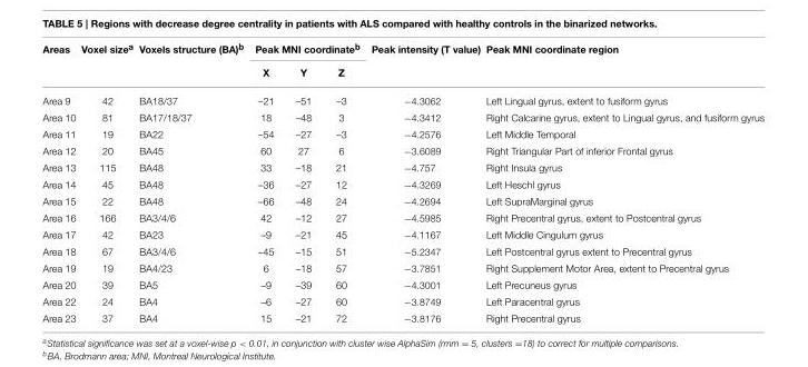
<table><thead><tr><td rowspan="2">Areas</td><td rowspan="2">Voxel size<sup>a</sup></td><td rowspan="2">Voxels structure (BA)<sup>b</sup></td><td colspan="3">Peak MNI coordinate<sup>b</sup></td><td rowspan="2">Peak intensity (T value)</td><td rowspan="2">Peak MNI coordinate region</td></tr><tr><td>X</td><td>Y</td><td>Z</td></tr></thead><tbody><tr><td>Area 9</td><td>42</td><td>BA18/37</td><td>–21</td><td>–51</td><td>–3</td><td>−4.3062</td><td>Left Lingual gyrus, extent to fusiform gyrus</td></tr><tr><td>Area 10</td><td>81</td><td>BA17/18/37</td><td>18</td><td>–48</td><td>3</td><td>−4.3412</td><td>Right Calcarine gyrus, extent to Lingual gyrus, and fusiform gyrus</td></tr><tr><td>Area 11</td><td>19</td><td>BA22</td><td>–54</td><td>–27</td><td>–3</td><td>−4.2576</td><td>Left Middle Temporal</td></tr><tr><td>Area 12</td><td>20</td><td>BA45</td><td>60</td><td>27</td><td>6</td><td>−3.6089</td><td>Right Triangular Part of inferior Frontal gyrus</td></tr><tr><td>Area 13</td><td>115</td><td>BA48</td><td>33</td><td>–18</td><td>21</td><td>−4.757</td><td>Right Insula gyrus</td></tr><tr><td>Area 14</td><td>45</td><td>BA48</td><td>–36</td><td>–27</td><td>12</td><td>−4.3269</td><td>Left Heschl gyrus</td></tr><tr><td>Area 15</td><td>22</td><td>BA48</td><td>–66</td><td>–48</td><td>24</td><td>−4.2694</td><td>Left SupraMarginal gyrus</td></tr><tr><td>Area 16</td><td>166</td><td>BA3/4/6</td><td>42</td><td>–12</td><td>27</td><td>−4.5985</td><td>Right Precentral gyrus, extent to Postcentral gyrus</td></tr><tr><td>Area 17</td><td>42</td><td>BA23</td><td>–9</td><td>–21</td><td>45</td><td>−4.1167</td><td>Left Middle Cingulum gyrus</td></tr><tr><td>Area 18</td><td>67</td><td>BA3/4/6</td><td>–45</td><td>–15</td><td>51</td><td>−5.2347</td><td>Left Postcentral gyrus extent to Precentral gyrus</td></tr><tr><td>Area 19</td><td>19</td><td>BA4/23</td><td>6</td><td>–18</td><td>57</td><td>−3.7851</td><td>Right Supplement Motor Area, extent to Precentral gyrus</td></tr><tr><td>Area 20</td><td>39</td><td>BA5</td><td>–9</td><td>–39</td><td>60</td><td>−4.3001</td><td>Left Precuneus gyrus</td></tr><tr><td>Area 22</td><td>24</td><td>BA4</td><td>–6</td><td>–27</td><td>60</td><td>−3.8749</td><td>Left Paracentral gyrus</td></tr><tr><td>Area 23</td><td>37</td><td>BA4</td><td>15</td><td>–21</td><td>72</td><td>−3.8176</td><td>Right Precentral gyrus</td></tr></tbody></table>